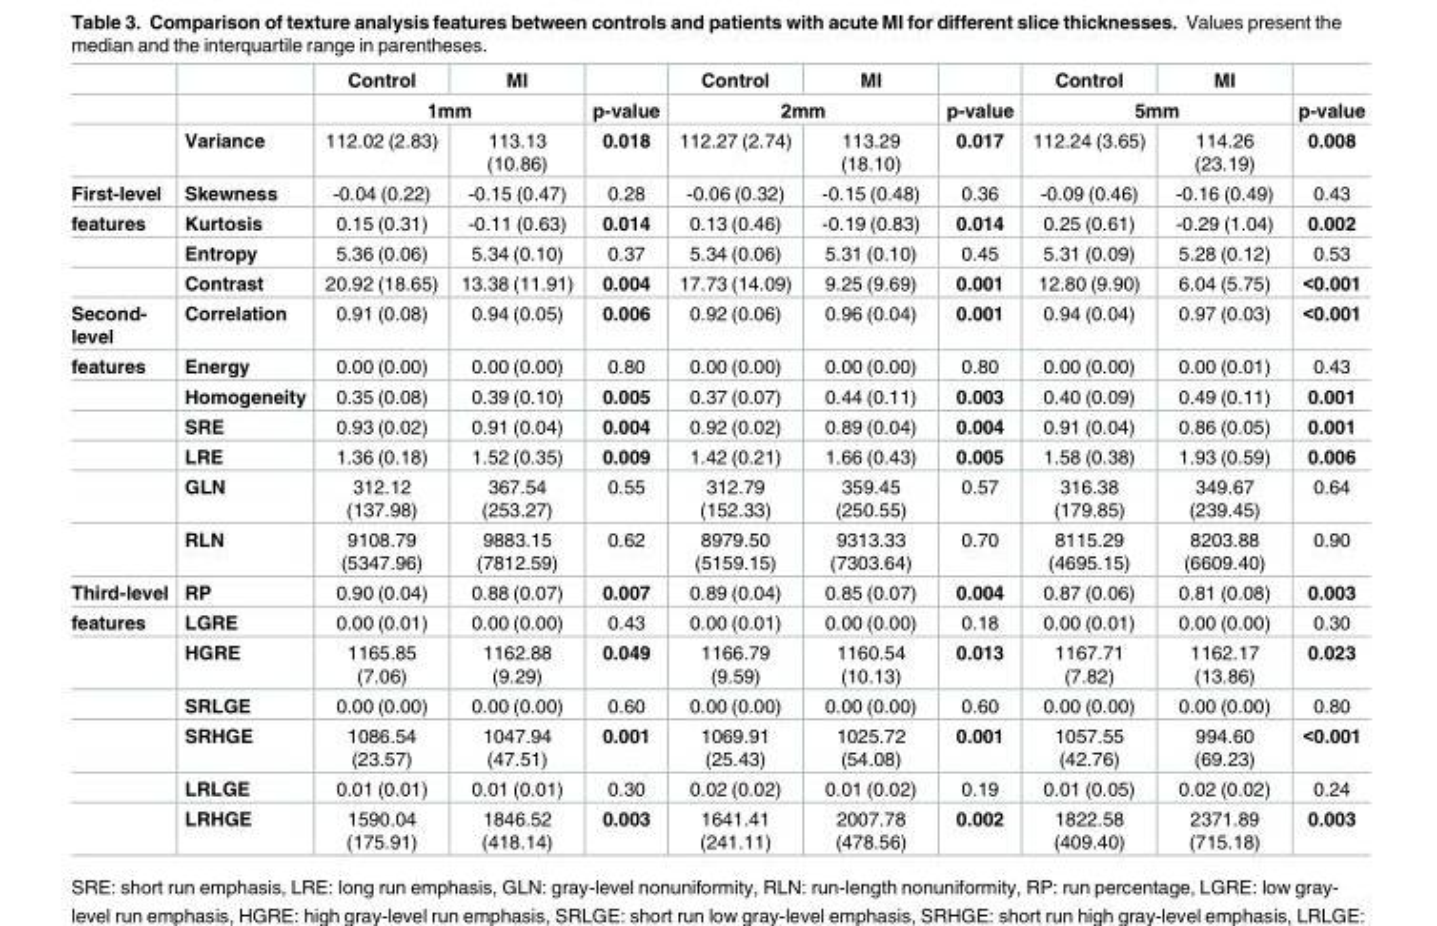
<table><thead><tr><td rowspan="2"></td><td rowspan="2"></td><td>Control</td><td>MI</td><td rowspan="2">p-value</td><td>Control</td><td>MI</td><td rowspan="2">p-value</td><td>Control</td><td>MI</td><td rowspan="2">p-value</td></tr><tr><td colspan="2">1mm</td><td colspan="2">2mm</td><td colspan="2">5mm</td></tr></thead><tbody><tr><td></td><td>Variance</td><td>112.02 (2.83)</td><td>113.13 (10.86)</td><td>0.018</td><td>112.27 (2.74)</td><td>113.29 (18.10)</td><td>0.017</td><td>112.24 (3.65)</td><td>114.26 (23.19)</td><td>0.008</td></tr><tr><td>First-level</td><td>Skewness</td><td>-0.04 (0.22)</td><td>-0.15 (0.47)</td><td>0.28</td><td>-0.06 (0.32)</td><td>-0.15 (0.48)</td><td>0.36</td><td>-0.09 (0.46)</td><td>-0.16 (0.49)</td><td>0.43</td></tr><tr><td rowspan="3">features</td><td>Kurtosis</td><td>0.15 (0.31)</td><td>-0.11 (0.63)</td><td>0.014</td><td>0.13 (0.46)</td><td>-0.19 (0.83)</td><td>0.014</td><td>0.25 (0.61)</td><td>-0.29 (1.04)</td><td>0.002</td></tr><tr><td>Entropy</td><td>5.36 (0.06)</td><td>5.34 (0.10)</td><td>0.37</td><td>5.34 (0.06)</td><td>5.31 (0.10)</td><td>0.45</td><td>5.31 (0.09)</td><td>5.28 (0.12)</td><td>0.53</td></tr><tr><td>Contrast</td><td>20.92 (18.65)</td><td>13.38 (11.91)</td><td>0.004</td><td>17.73 (14.09)</td><td>9.25 (9.69)</td><td>0.001</td><td>12.80 (9.90)</td><td>6.04 (5.75)</td><td>&lt;0.001</td></tr><tr><td>Second- level</td><td>Correlation</td><td>0.91 (0.08)</td><td>0.94 (0.05)</td><td>0.006</td><td>0.92 (0.06)</td><td>0.96 (0.04)</td><td>0.001</td><td>0.94 (0.04)</td><td>0.97 (0.03)</td><td>&lt;0.001</td></tr><tr><td rowspan="6">features</td><td>Energy</td><td>0.00 (0.00)</td><td>0.00 (0.00)</td><td>0.80</td><td>0.00 (0.00)</td><td>0.00 (0.00)</td><td>0.80</td><td>0.00 (0.00)</td><td>0.00 (0.01)</td><td>0.43</td></tr><tr><td>Homogeneity</td><td>0.35 (0.08)</td><td>0.39 (0.10)</td><td>0.005</td><td>0.37 (0.07)</td><td>0.44 (0.11)</td><td>0.003</td><td>0.40 (0.09)</td><td>0.49 (0.11)</td><td>0.001</td></tr><tr><td>SRE</td><td>0.93 (0.02)</td><td>0.91 (0.04)</td><td>0.004</td><td>0.92 (0.02)</td><td>0.89 (0.04)</td><td>0.004</td><td>0.91 (0.04)</td><td>0.86 (0.05)</td><td>0.001</td></tr><tr><td>LRE</td><td>1.36 (0.18)</td><td>1.52 (0.35)</td><td>0.009</td><td>1.42 (0.21)</td><td>1.66 (0.43)</td><td>0.005</td><td>1.58 (0.38)</td><td>1.93 (0.59)</td><td>0.006</td></tr><tr><td>GLN</td><td>312.12 (137.98)</td><td>367.54 (253.27)</td><td>0.55</td><td>312.79 (152.33)</td><td>359.45 (250.55)</td><td>0.57</td><td>316.38 (179.85)</td><td>349.67 (239.45)</td><td>0.64</td></tr><tr><td>RLN</td><td>9108.79 (5347.96)</td><td>9883.15 (7812.59)</td><td>0.62</td><td>8979.50 (5159.15)</td><td>9313.33 (7303.64)</td><td>0.70</td><td>8115.29 (4695.15)</td><td>8203.88 (6609.40)</td><td>0.90</td></tr><tr><td>Third-level</td><td>RP</td><td>0.90 (0.04)</td><td>0.88 (0.07)</td><td>0.007</td><td>0.89 (0.04)</td><td>0.85 (0.07)</td><td>0.004</td><td>0.87 (0.06)</td><td>0.81 (0.08)</td><td>0.003</td></tr><tr><td rowspan="6">features</td><td>LGRE</td><td>0.00 (0.01)</td><td>0.00 (0.00)</td><td>0.43</td><td>0.00 (0.01)</td><td>0.00 (0.00)</td><td>0.18</td><td>0.00 (0.01)</td><td>0.00 (0.00)</td><td>0.30</td></tr><tr><td>HGRE</td><td>1165.85 (7.06)</td><td>1162.88 (9.29)</td><td>0.049</td><td>1166.79 (9.59)</td><td>1160.54 (10.13)</td><td>0.013</td><td>1167.71 (7.82)</td><td>1162.17 (13.86)</td><td>0.023</td></tr><tr><td>SRLGE</td><td>0.00 (0.00)</td><td>0.00 (0.00)</td><td>0.60</td><td>0.00 (0.00)</td><td>0.00 (0.00)</td><td>0.60</td><td>0.00 (0.00)</td><td>0.00 (0.00)</td><td>0.80</td></tr><tr><td>SRHGE</td><td>1086.54 (23.57)</td><td>1047.94 (47.51)</td><td>0.001</td><td>1069.91 (25.43)</td><td>1025.72 (54.08)</td><td>0.001</td><td>1057.55 (42.76)</td><td>994.60 (69.23)</td><td>&lt;0.001</td></tr><tr><td>LRLGE</td><td>0.01 (0.01)</td><td>0.01 (0.01)</td><td>0.30</td><td>0.02 (0.02)</td><td>0.01 (0.02)</td><td>0.19</td><td>0.01 (0.05)</td><td>0.02 (0.02)</td><td>0.24</td></tr><tr><td>LRHGE</td><td>1590.04 (175.91)</td><td>1846.52 (418.14)</td><td>0.003</td><td>1641.41 (241.11)</td><td>2007.78 (478.56)</td><td>0.002</td><td>1822.58 (409.40)</td><td>2371.89 (715.18)</td><td>0.003</td></tr></tbody></table>